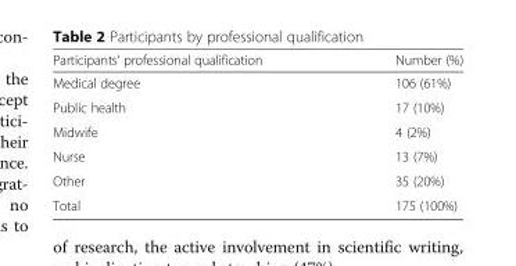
<table><thead><tr><td>Participants’ professional qualification</td><td>Number (%)</td></tr></thead><tbody><tr><td>Medical degree</td><td>106 (61%)</td></tr><tr><td>Public health</td><td>17 (10%)</td></tr><tr><td>Midwife</td><td>4 (2%)</td></tr><tr><td>Nurse</td><td>13 (7%)</td></tr><tr><td>Other</td><td>35 (20%)</td></tr><tr><td>Total</td><td>175 (100%)</td></tr></tbody></table>